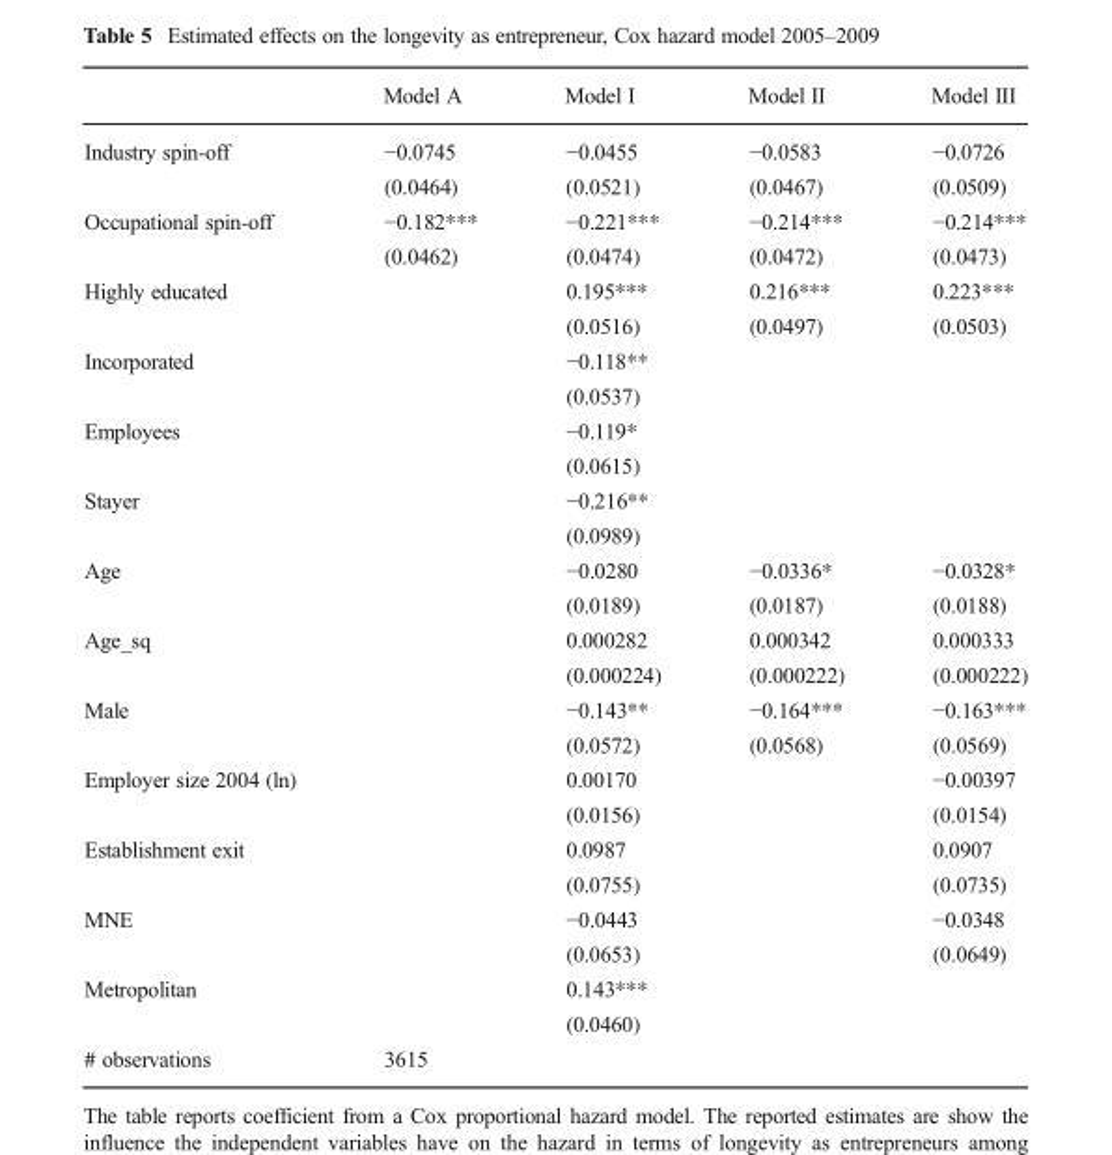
<table><thead><tr><td></td><td>Model A</td><td>Model I</td><td>Model II</td><td>Model III</td></tr></thead><tbody><tr><td rowspan="2">Industry spin-off</td><td>−0.0745</td><td>−0.0455</td><td>−0.0583</td><td>−0.0726</td></tr><tr><td>(0.0464)</td><td>(0.0521)</td><td>(0.0467)</td><td>(0.0509)</td></tr><tr><td rowspan="2">Occupational spin-off</td><td>−0.182***</td><td>−0.221***</td><td>−0.214***</td><td>−0.214***</td></tr><tr><td>(0.0462)</td><td>(0.0474)</td><td>(0.0472)</td><td>(0.0473)</td></tr><tr><td rowspan="2">Highly educated</td><td></td><td>0.195***</td><td>0.216***</td><td>0.223***</td></tr><tr><td></td><td>(0.0516)</td><td>(0.0497)</td><td>(0.0503)</td></tr><tr><td rowspan="2">Incorporated</td><td></td><td>−0.118**</td><td></td><td></td></tr><tr><td></td><td>(0.0537)</td><td></td><td></td></tr><tr><td rowspan="2">Employees</td><td></td><td>−0.119*</td><td></td><td></td></tr><tr><td></td><td>(0.0615)</td><td></td><td></td></tr><tr><td rowspan="2">Stayer</td><td></td><td>−0.216**</td><td></td><td></td></tr><tr><td></td><td>(0.0989)</td><td></td><td></td></tr><tr><td rowspan="2">Age</td><td></td><td>−0.0280</td><td>−0.0336*</td><td>−0.0328*</td></tr><tr><td></td><td>(0.0189)</td><td>(0.0187)</td><td>(0.0188)</td></tr><tr><td rowspan="2">Age_sq</td><td></td><td>0.000282</td><td>0.000342</td><td>0.000333</td></tr><tr><td></td><td>(0.000224)</td><td>(0.000222)</td><td>(0.000222)</td></tr><tr><td rowspan="2">Male</td><td></td><td>−0.143**</td><td>−0.164***</td><td>−0.163***</td></tr><tr><td></td><td>(0.0572)</td><td>(0.0568)</td><td>(0.0569)</td></tr><tr><td rowspan="2">Employer size 2004 (ln)</td><td></td><td>0.00170</td><td></td><td>−0.00397</td></tr><tr><td></td><td>(0.0156)</td><td></td><td>(0.0154)</td></tr><tr><td rowspan="2">Establishment exit</td><td></td><td>0.0987</td><td></td><td>0.0907</td></tr><tr><td></td><td>(0.0755)</td><td></td><td>(0.0735)</td></tr><tr><td rowspan="2">MNE</td><td></td><td>−0.0443</td><td></td><td>−0.0348</td></tr><tr><td></td><td>(0.0653)</td><td></td><td>(0.0649)</td></tr><tr><td rowspan="2">Metropolitan</td><td></td><td>0.143***</td><td></td><td></td></tr><tr><td></td><td>(0.0460)</td><td></td><td></td></tr><tr><td># observations</td><td colspan="4">3615</td></tr></tbody></table>